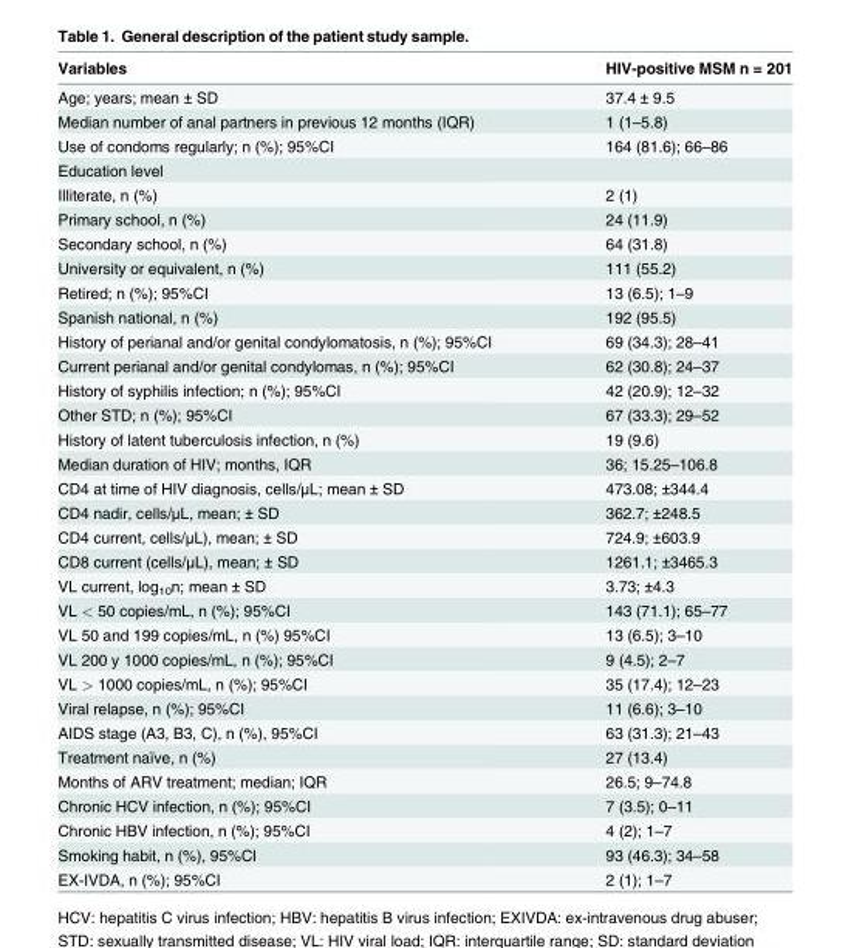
<table><thead><tr><td>Variables</td><td>HIV-positive MSM n = 201</td></tr></thead><tbody><tr><td>Age; years; mean ± SD</td><td>37.4 ± 9.5</td></tr><tr><td>Median number of anal partners in previous 12 months (IQR)</td><td>1 (1–5.8)</td></tr><tr><td>Use of condoms regularly; n (%); 95%CI</td><td>164 (81.6); 66–86</td></tr><tr><td colspan="2">Education level</td></tr><tr><td>Illiterate, n (%)</td><td>2 (1)</td></tr><tr><td>Primary school, n (%)</td><td>24 (11.9)</td></tr><tr><td>Secondary school, n (%)</td><td>64 (31.8)</td></tr><tr><td>University or equivalent, n (%)</td><td>111 (55.2)</td></tr><tr><td>Retired; n (%); 95%CI</td><td>13 (6.5); 1–9</td></tr><tr><td>Spanish national, n (%)</td><td>192 (95.5)</td></tr><tr><td>History of perianal and/or genital condylomatosis, n (%); 95%CI</td><td>69 (34.3); 28–41</td></tr><tr><td>Current perianal and/or genital condylomas, n (%); 95%CI</td><td>62 (30.8); 24–37</td></tr><tr><td>History of syphilis infection; n (%); 95%CI</td><td>42 (20.9); 12–32</td></tr><tr><td>Other STD; n (%); 95%CI</td><td>67 (33.3); 29–52</td></tr><tr><td>History of latent tuberculosis infection, n (%)</td><td>19 (9.6)</td></tr><tr><td>Median duration of HIV; months, IQR</td><td>36; 15.25–106.8</td></tr><tr><td>CD4 at time of HIV diagnosis, cells/μL; mean ± SD</td><td>473.08; ±344.4</td></tr><tr><td>CD4 nadir, cells/μL, mean; ± SD</td><td>362.7; ±248.5</td></tr><tr><td>CD4 current, cells/μL), mean; ± SD</td><td>724.9; ±603.9</td></tr><tr><td>CD8 current (cells/μL), mean; ± SD</td><td>1261.1; ±3465.3</td></tr><tr><td>VL current, log<sub>10</sub>n; mean ± SD</td><td>3.73; ±4.3</td></tr><tr><td>VL &lt; 50 copies/mL, n (%); 95%CI</td><td>143 (71.1); 65–77</td></tr><tr><td>VL 50 and 199 copies/mL, n (%) 95%CI</td><td>13 (6.5); 3–10</td></tr><tr><td>VL 200 y 1000 copies/mL, n (%); 95%CI</td><td>9 (4.5); 2–7</td></tr><tr><td>VL &gt; 1000 copies/mL, n (%); 95%CI</td><td>35 (17.4); 12–23</td></tr><tr><td>Viral relapse, n (%); 95%CI</td><td>11 (6.6); 3–10</td></tr><tr><td>AIDS stage (A3, B3, C), n (%), 95%CI</td><td>63 (31.3); 21–43</td></tr><tr><td>Treatment naïve, n (%)</td><td>27 (13.4)</td></tr><tr><td>Months of ARV treatment; median; IQR</td><td>26.5; 9–74.8</td></tr><tr><td>Chronic HCV infection, n (%); 95%CI</td><td>7 (3.5); 0–11</td></tr><tr><td>Chronic HBV infection, n (%); 95%CI</td><td>4 (2); 1–7</td></tr><tr><td>Smoking habit, n (%), 95%CI</td><td>93 (46.3); 34–58</td></tr><tr><td>EX-IVDA, n (%); 95%CI</td><td>2 (1); 1–7</td></tr></tbody></table>